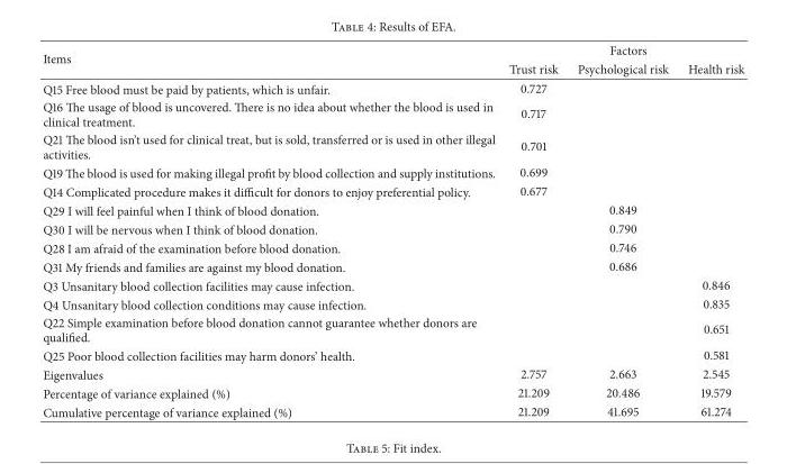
<table><thead><tr><td rowspan="2">Items</td><td colspan="3">Factors</td></tr><tr><td>Trust risk</td><td>Psychological risk</td><td>Health risk</td></tr></thead><tbody><tr><td>Q15 Free blood must be paid by patients, which is unfair.</td><td>0.727</td><td></td><td></td></tr><tr><td>Q16 The usage of blood is uncovered. There is no idea about whether the blood is used in clinical treatment.</td><td>0.717</td><td></td><td></td></tr><tr><td>Q21 The blood isn’t used for clinical treat, but is sold, transferred or is used in other illegal activities.</td><td>0.701</td><td></td><td></td></tr><tr><td>Q19 The blood is used for making illegal profit by blood collection and supply institutions.</td><td>0.699</td><td></td><td></td></tr><tr><td>Q14 Complicated procedure makes it difficult for donors to enjoy preferential policy.</td><td>0.677</td><td></td><td></td></tr><tr><td>Q29 I will feel painful when I think of blood donation.</td><td></td><td>0.849</td><td></td></tr><tr><td>Q30 I will be nervous when I think of blood donation.</td><td></td><td>0.790</td><td></td></tr><tr><td>Q28 I am afraid of the examination before blood donation.</td><td></td><td>0.746</td><td></td></tr><tr><td>Q31 My friends and families are against my blood donation.</td><td></td><td>0.686</td><td></td></tr><tr><td>Q3 Unsanitary blood collection facilities may cause infection.</td><td></td><td></td><td>0.846</td></tr><tr><td>Q4 Unsanitary blood collection conditions may cause infection.</td><td></td><td></td><td>0.835</td></tr><tr><td>Q22 Simple examination before blood donation cannot guarantee whether donors are qualified.</td><td></td><td></td><td>0.651</td></tr><tr><td>Q25 Poor blood collection facilities may harm donors’ health.</td><td></td><td></td><td>0.581</td></tr><tr><td>Eigenvalues</td><td>2.757</td><td>2.663</td><td>2.545</td></tr><tr><td>Percentage of variance explained (%)</td><td>21.209</td><td>20.486</td><td>19.579</td></tr><tr><td>Cumulative percentage of variance explained (%)</td><td>21.209</td><td>41.695</td><td>61.274</td></tr></tbody></table>